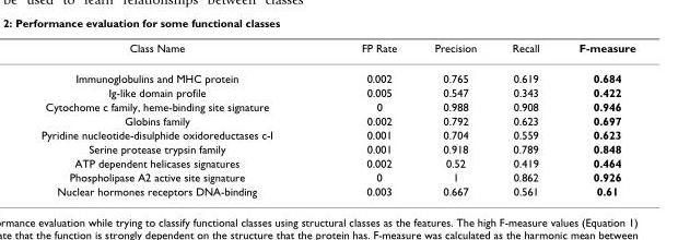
<table><thead><tr><td>Class Name</td><td>FP Rate</td><td>Precision</td><td>Recall</td><td>F-measure</td></tr></thead><tbody><tr><td>Immunoglobulins and MHC protein</td><td>0.002</td><td>0.765</td><td>0.619</td><td>0.684</td></tr><tr><td>Ig-like domain profile</td><td>0.005</td><td>0.547</td><td>0.343</td><td>0.422</td></tr><tr><td>Cytochome c family, heme-binding site signature</td><td>0</td><td>0.988</td><td>0.908</td><td>0.946</td></tr><tr><td>Globins family</td><td>0.002</td><td>0.792</td><td>0.623</td><td>0.697</td></tr><tr><td>Pyridine nucleotide-disulphide oxidoreductases c-I</td><td>0.001</td><td>0.704</td><td>0.559</td><td>0.623</td></tr><tr><td>Serine protease trypsin family</td><td>0.001</td><td>0.918</td><td>0.789</td><td>0.848</td></tr><tr><td>ATP dependent helicases signatures</td><td>0.002</td><td>0.52</td><td>0.419</td><td>0.464</td></tr><tr><td>Phospholipase A2 active site signature</td><td>0</td><td>1</td><td>0.862</td><td>0.926</td></tr><tr><td>Nuclear hormones receptors DNA-binding</td><td>0.003</td><td>0.667</td><td>0.561</td><td>0.61</td></tr></tbody></table>